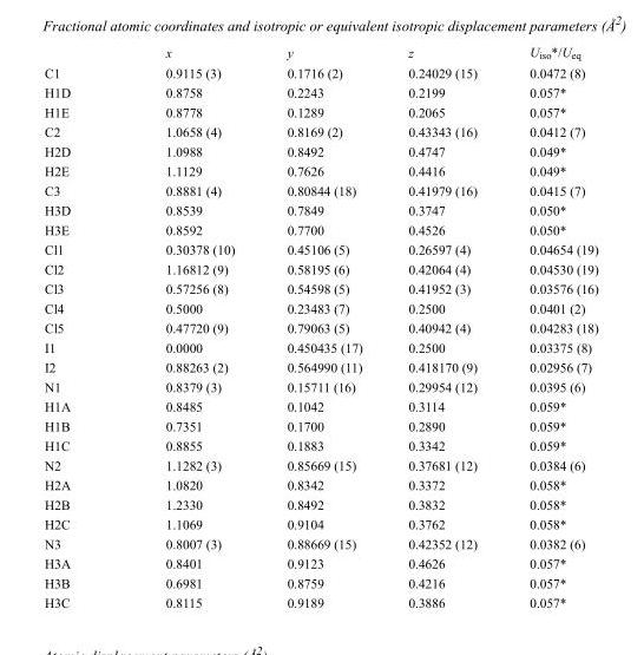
<table><thead><tr><td></td><td>x</td><td>y</td><td>z</td><td>U<sub>iso</sub>*/U<sub>eq</sub></td></tr></thead><tbody><tr><td>C1</td><td>0.9115 (3)</td><td>0.1716 (2)</td><td>0.24029 (15)</td><td>0.0472 (8)</td></tr><tr><td>H1D</td><td>0.8758</td><td>0.2243</td><td>0.2199</td><td>0.057*</td></tr><tr><td>H1E</td><td>0.8778</td><td>0.1289</td><td>0.2065</td><td>0.057*</td></tr><tr><td>C2</td><td>1.0658 (4)</td><td>0.8169 (2)</td><td>0.43343 (16)</td><td>0.0412 (7)</td></tr><tr><td>H2D</td><td>1.0988</td><td>0.8492</td><td>0.4747</td><td>0.049*</td></tr><tr><td>H2E</td><td>1.1129</td><td>0.7626</td><td>0.4416</td><td>0.049*</td></tr><tr><td>C3</td><td>0.8881 (4)</td><td>0.80844 (18)</td><td>0.41979 (16)</td><td>0.0415 (7)</td></tr><tr><td>H3D</td><td>0.8539</td><td>0.7849</td><td>0.3747</td><td>0.050*</td></tr><tr><td>H3E</td><td>0.8592</td><td>0.7700</td><td>0.4526</td><td>0.050*</td></tr><tr><td>Cl1</td><td>0.30378 (10)</td><td>0.45106 (5)</td><td>0.26597 (4)</td><td>0.04654 (19)</td></tr><tr><td>Cl2</td><td>1.16812 (9)</td><td>0.58195 (6)</td><td>0.42064 (4)</td><td>0.04530 (19)</td></tr><tr><td>Cl3</td><td>0.57256 (8)</td><td>0.54598 (5)</td><td>0.41952 (3)</td><td>0.03576 (16)</td></tr><tr><td>Cl4</td><td>0.5000</td><td>0.23483 (7)</td><td>0.2500</td><td>0.0401 (2)</td></tr><tr><td>Cl5</td><td>0.47720 (9)</td><td>0.79063 (5)</td><td>0.40942 (4)</td><td>0.04283 (18)</td></tr><tr><td>I1</td><td>0.0000</td><td>0.450435 (17)</td><td>0.2500</td><td>0.03375 (8)</td></tr><tr><td>I2</td><td>0.88263 (2)</td><td>0.564990 (11)</td><td>0.418170 (9)</td><td>0.02956 (7)</td></tr><tr><td>N1</td><td>0.8379 (3)</td><td>0.15711 (16)</td><td>0.29954 (12)</td><td>0.0395 (6)</td></tr><tr><td>H1A</td><td>0.8485</td><td>0.1042</td><td>0.3114</td><td>0.059*</td></tr><tr><td>H1B</td><td>0.7351</td><td>0.1700</td><td>0.2890</td><td>0.059*</td></tr><tr><td>H1C</td><td>0.8855</td><td>0.1883</td><td>0.3342</td><td>0.059*</td></tr><tr><td>N2</td><td>1.1282 (3)</td><td>0.85669 (15)</td><td>0.37681 (12)</td><td>0.0384 (6)</td></tr><tr><td>H2A</td><td>1.0820</td><td>0.8342</td><td>0.3372</td><td>0.058*</td></tr><tr><td>H2B</td><td>1.2330</td><td>0.8492</td><td>0.3832</td><td>0.058*</td></tr><tr><td>H2C</td><td>1.1069</td><td>0.9104</td><td>0.3762</td><td>0.058*</td></tr><tr><td>N3</td><td>0.8007 (3)</td><td>0.88669 (15)</td><td>0.42352 (12)</td><td>0.0382 (6)</td></tr><tr><td>H3A</td><td>0.8401</td><td>0.9123</td><td>0.4626</td><td>0.057*</td></tr><tr><td>H3B</td><td>0.6981</td><td>0.8759</td><td>0.4216</td><td>0.057*</td></tr><tr><td>H3C</td><td>0.8115</td><td>0.9189</td><td>0.3886</td><td>0.057*</td></tr></tbody></table>